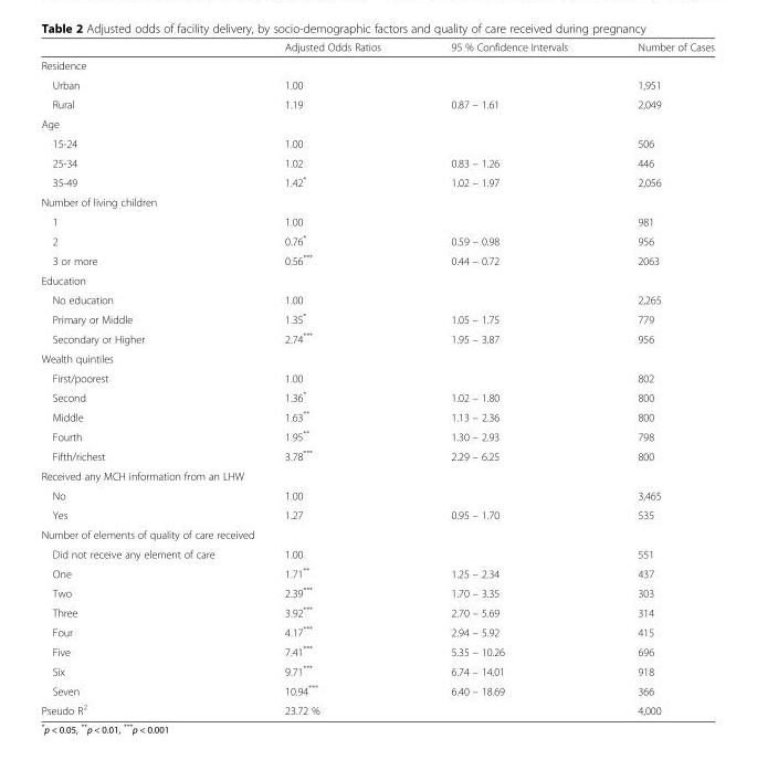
<table><thead><tr><td></td><td>Adjusted Odds Ratios</td><td>95 % Confidence Intervals</td><td>Number of Cases</td></tr></thead><tbody><tr><td colspan="4">Residence</td></tr><tr><td>Urban</td><td>1.00</td><td></td><td>1,951</td></tr><tr><td>Rural</td><td>1.19</td><td>0.87 – 1.61</td><td>2,049</td></tr><tr><td colspan="4">Age</td></tr><tr><td>15-24</td><td>1.00</td><td></td><td>506</td></tr><tr><td>25-34</td><td>1.02</td><td>0.83 – 1.26</td><td>446</td></tr><tr><td>35-49</td><td>1.42*</td><td>1.02 – 1.97</td><td>2,056</td></tr><tr><td colspan="4">Number of living children</td></tr><tr><td>1</td><td>1.00</td><td></td><td>981</td></tr><tr><td>2</td><td>0.76*</td><td>0.59 – 0.98</td><td>956</td></tr><tr><td>3 or more</td><td>0.56***</td><td>0.44 – 0.72</td><td>2063</td></tr><tr><td colspan="4">Education</td></tr><tr><td>No education</td><td>1.00</td><td></td><td>2,265</td></tr><tr><td>Primary or Middle</td><td>1.35*</td><td>1.05 – 1.75</td><td>779</td></tr><tr><td>Secondary or Higher</td><td>2.74***</td><td>1.95 – 3.87</td><td>956</td></tr><tr><td colspan="4">Wealth quintiles</td></tr><tr><td>First/poorest</td><td>1.00</td><td></td><td>802</td></tr><tr><td>Second</td><td>1.36*</td><td>1.02 – 1.80</td><td>800</td></tr><tr><td>Middle</td><td>1.63**</td><td>1.13 – 2.36</td><td>800</td></tr><tr><td>Fourth</td><td>1.95**</td><td>1.30 – 2.93</td><td>798</td></tr><tr><td>Fifth/richest</td><td>3.78***</td><td>2.29 – 6.25</td><td>800</td></tr><tr><td colspan="4">Received any MCH information from an LHW</td></tr><tr><td>No</td><td>1.00</td><td></td><td>3,465</td></tr><tr><td>Yes</td><td>1.27</td><td>0.95 – 1.70</td><td>535</td></tr><tr><td colspan="4">Number of elements of quality of care received</td></tr><tr><td>Did not receive any element of care</td><td>1.00</td><td></td><td>551</td></tr><tr><td>One</td><td>1.71**</td><td>1.25 – 2.34</td><td>437</td></tr><tr><td>Two</td><td>2.39***</td><td>1.70 – 3.35</td><td>303</td></tr><tr><td>Three</td><td>3.92***</td><td>2.70 – 5.69</td><td>314</td></tr><tr><td>Four</td><td>4.17***</td><td>2.94 – 5.92</td><td>415</td></tr><tr><td>Five</td><td>7.41***</td><td>5.35 – 10.26</td><td>696</td></tr><tr><td>Six</td><td>9.71***</td><td>6.74 – 14.01</td><td>918</td></tr><tr><td>Seven</td><td>10.94***</td><td>6.40 – 18.69</td><td>366</td></tr><tr><td>Pseudo R<sup>2</sup></td><td>23.72 %</td><td></td><td>4,000</td></tr></tbody></table>